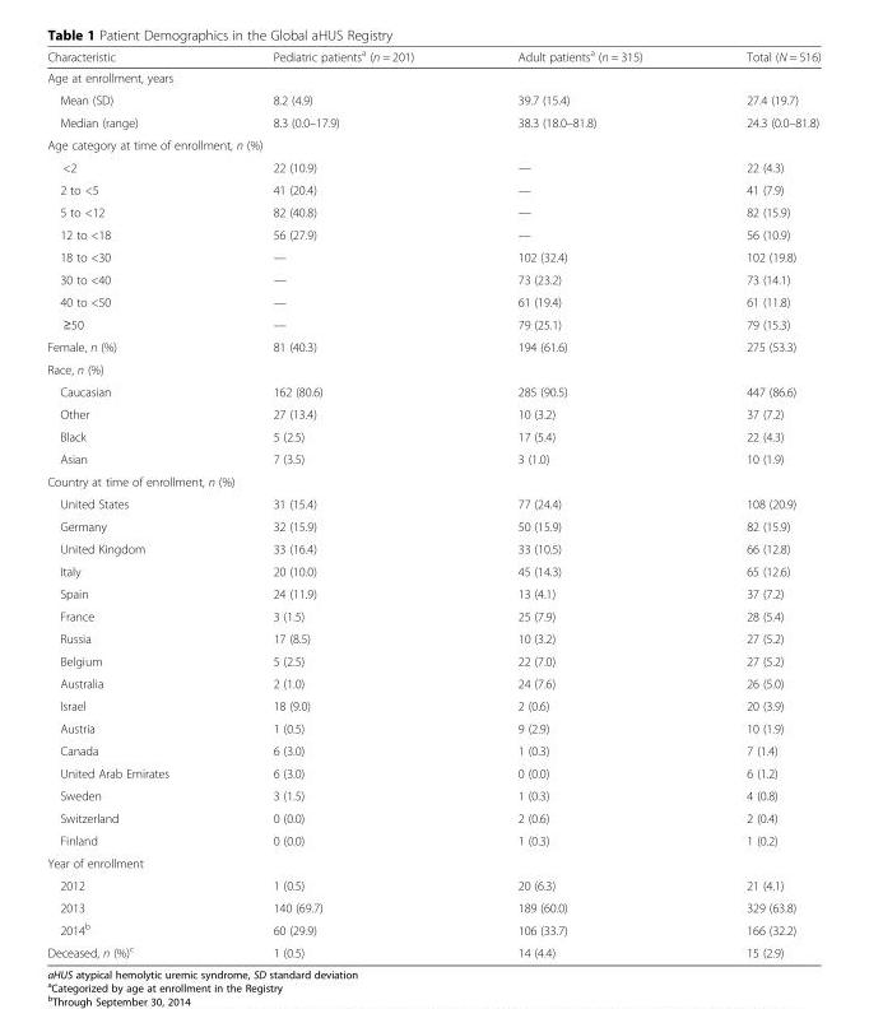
<table><thead><tr><td>Characteristic</td><td>Pediatric patients<sup>a</sup> (n = 201)</td><td>Adult patients<sup>a</sup> (n = 315)</td><td>Total (N = 516)</td></tr></thead><tbody><tr><td colspan="4">Age at enrollment, years</td></tr><tr><td>Mean (SD)</td><td>8.2 (4.9)</td><td>39.7 (15.4)</td><td>27.4 (19.7)</td></tr><tr><td>Median (range)</td><td>8.3 (0.0–17.9)</td><td>38.3 (18.0–81.8)</td><td>24.3 (0.0–81.8)</td></tr><tr><td colspan="4">Age category at time of enrollment, n (%)</td></tr><tr><td>&lt;2</td><td>22 (10.9)</td><td>—</td><td>22 (4.3)</td></tr><tr><td>2 to &lt;5</td><td>41 (20.4)</td><td>—</td><td>41 (7.9)</td></tr><tr><td>5 to &lt;12</td><td>82 (40.8)</td><td>—</td><td>82 (15.9)</td></tr><tr><td>12 to &lt;18</td><td>56 (27.9)</td><td>—</td><td>56 (10.9)</td></tr><tr><td>18 to &lt;30</td><td>—</td><td>102 (32.4)</td><td>102 (19.8)</td></tr><tr><td>30 to &lt;40</td><td>—</td><td>73 (23.2)</td><td>73 (14.1)</td></tr><tr><td>40 to &lt;50</td><td>—</td><td>61 (19.4)</td><td>61 (11.8)</td></tr><tr><td>≥50</td><td>—</td><td>79 (25.1)</td><td>79 (15.3)</td></tr><tr><td>Female, n (%)</td><td>81 (40.3)</td><td>194 (61.6)</td><td>275 (53.3)</td></tr><tr><td colspan="4">Race, n (%)</td></tr><tr><td>Caucasian</td><td>162 (80.6)</td><td>285 (90.5)</td><td>447 (86.6)</td></tr><tr><td>Other</td><td>27 (13.4)</td><td>10 (3.2)</td><td>37 (7.2)</td></tr><tr><td>Black</td><td>5 (2.5)</td><td>17 (5.4)</td><td>22 (4.3)</td></tr><tr><td>Asian</td><td>7 (3.5)</td><td>3 (1.0)</td><td>10 (1.9)</td></tr><tr><td colspan="4">Country at time of enrollment, n (%)</td></tr><tr><td>United States</td><td>31 (15.4)</td><td>77 (24.4)</td><td>108 (20.9)</td></tr><tr><td>Germany</td><td>32 (15.9)</td><td>50 (15.9)</td><td>82 (15.9)</td></tr><tr><td>United Kingdom</td><td>33 (16.4)</td><td>33 (10.5)</td><td>66 (12.8)</td></tr><tr><td>Italy</td><td>20 (10.0)</td><td>45 (14.3)</td><td>65 (12.6)</td></tr><tr><td>Spain</td><td>24 (11.9)</td><td>13 (4.1)</td><td>37 (7.2)</td></tr><tr><td>France</td><td>3 (1.5)</td><td>25 (7.9)</td><td>28 (5.4)</td></tr><tr><td>Russia</td><td>17 (8.5)</td><td>10 (3.2)</td><td>27 (5.2)</td></tr><tr><td>Belgium</td><td>5 (2.5)</td><td>22 (7.0)</td><td>27 (5.2)</td></tr><tr><td>Australia</td><td>2 (1.0)</td><td>24 (7.6)</td><td>26 (5.0)</td></tr><tr><td>Israel</td><td>18 (9.0)</td><td>2 (0.6)</td><td>20 (3.9)</td></tr><tr><td>Austria</td><td>1 (0.5)</td><td>9 (2.9)</td><td>10 (1.9)</td></tr><tr><td>Canada</td><td>6 (3.0)</td><td>1 (0.3)</td><td>7 (1.4)</td></tr><tr><td>United Arab Emirates</td><td>6 (3.0)</td><td>0 (0.0)</td><td>6 (1.2)</td></tr><tr><td>Sweden</td><td>3 (1.5)</td><td>1 (0.3)</td><td>4 (0.8)</td></tr><tr><td>Switzerland</td><td>0 (0.0)</td><td>2 (0.6)</td><td>2 (0.4)</td></tr><tr><td>Finland</td><td>0 (0.0)</td><td>1 (0.3)</td><td>1 (0.2)</td></tr><tr><td colspan="4">Year of enrollment</td></tr><tr><td>2012</td><td>1 (0.5)</td><td>20 (6.3)</td><td>21 (4.1)</td></tr><tr><td>2013</td><td>140 (69.7)</td><td>189 (60.0)</td><td>329 (63.8)</td></tr><tr><td>2014<sup>b</sup></td><td>60 (29.9)</td><td>106 (33.7)</td><td>166 (32.2)</td></tr><tr><td>Deceased, n (%)<sup>c</sup></td><td>1 (0.5)</td><td>14 (4.4)</td><td>15 (2.9)</td></tr></tbody></table>